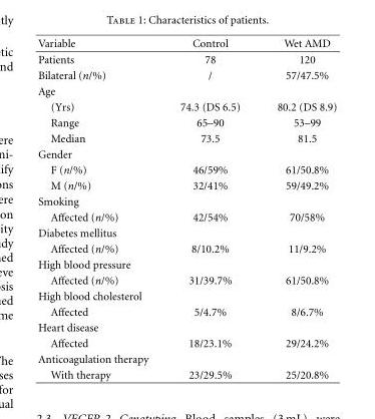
<table><thead><tr><td>Variable</td><td>Control</td><td>Wet AMD</td></tr></thead><tbody><tr><td>Patients</td><td>78</td><td>120</td></tr><tr><td>Bilateral (n/%)</td><td>/</td><td>57/47.5%</td></tr><tr><td colspan="3">Age</td></tr><tr><td>(Yrs)</td><td>74.3 (DS 6.5)</td><td>80.2 (DS 8.9)</td></tr><tr><td>Range</td><td>65–90</td><td>53–99</td></tr><tr><td>Median</td><td>73.5</td><td>81.5</td></tr><tr><td colspan="3">Gender</td></tr><tr><td>F (n/%)</td><td>46/59%</td><td>61/50.8%</td></tr><tr><td>M (n/%)</td><td>32/41%</td><td>59/49.2%</td></tr><tr><td colspan="3">Smoking</td></tr><tr><td>Affected (n/%)</td><td>42/54%</td><td>70/58%</td></tr><tr><td colspan="3">Diabetes mellitus</td></tr><tr><td>Affected (n/%)</td><td>8/10.2%</td><td>11/9.2%</td></tr><tr><td colspan="3">High blood pressure</td></tr><tr><td>Affected (n/%)</td><td>31/39.7%</td><td>61/50.8%</td></tr><tr><td colspan="3">High blood cholesterol</td></tr><tr><td>Affected</td><td>5/4.7%</td><td>8/6.7%</td></tr><tr><td colspan="3">Heart disease</td></tr><tr><td>Affected</td><td>18/23.1%</td><td>29/24.2%</td></tr><tr><td colspan="3">Anticoagulation therapy</td></tr><tr><td>With therapy</td><td>23/29.5%</td><td>25/20.8%</td></tr></tbody></table>